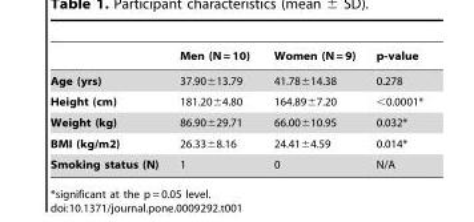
<table><thead><tr><td></td><td>Men (N = 10)</td><td>Women (N = 9)</td><td>p-value</td></tr></thead><tbody><tr><td>Age (yrs)</td><td>37.90±13.79</td><td>41.78±14.38</td><td>0.278</td></tr><tr><td>Height (cm)</td><td>181.20±4.80</td><td>164.89±7.20</td><td>&lt;0.0001*</td></tr><tr><td>Weight (kg)</td><td>86.90±29.71</td><td>66.00±10.95</td><td>0.032*</td></tr><tr><td>BMI (kg/m2)</td><td>26.33±8.16</td><td>24.41±4.59</td><td>0.014*</td></tr><tr><td>Smoking status (N)</td><td>1</td><td>0</td><td>N/A</td></tr></tbody></table>